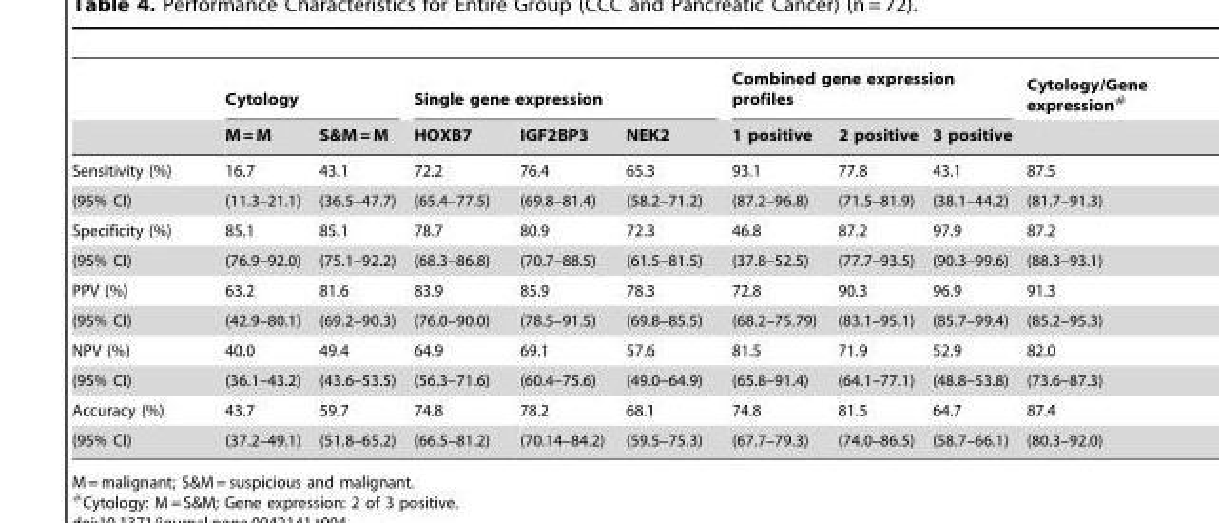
<table><thead><tr><td rowspan="2"></td><td colspan="2">Cytology</td><td colspan="3">Single gene expression</td><td colspan="3">Combined gene expression profiles</td><td rowspan="2">Cytology/Gene expression#</td></tr><tr><td>M = M</td><td>S&amp;M = M</td><td>HOXB7</td><td>IGF2BP3</td><td>NEK2</td><td>1 positive</td><td>2 positive</td><td>3 positive</td></tr></thead><tbody><tr><td>Sensitivity (%)</td><td>16.7</td><td>43.1</td><td>72.2</td><td>76.4</td><td>65.3</td><td>93.1</td><td>77.8</td><td>43.1</td><td>87.5</td></tr><tr><td>(95% CI)</td><td>(11.3–21.1)</td><td>(36.5–47.7)</td><td>(65.4–77.5)</td><td>(69.8–81.4)</td><td>(58.2–71.2)</td><td>(87.2–96.8)</td><td>(71.5–81.9)</td><td>(38.1–44.2)</td><td>(81.7–91.3)</td></tr><tr><td>Specificity (%)</td><td>85.1</td><td>85.1</td><td>78.7</td><td>80.9</td><td>72.3</td><td>46.8</td><td>87.2</td><td>97.9</td><td>87.2</td></tr><tr><td>(95% CI)</td><td>(76.9–92.0)</td><td>(75.1–92.2)</td><td>(68.3–86.8)</td><td>(70.7–88.5)</td><td>(61.5–81.5)</td><td>(37.8–52.5)</td><td>(77.7–93.5)</td><td>(90.3–99.6)</td><td>(88.3–93.1)</td></tr><tr><td>PPV (%)</td><td>63.2</td><td>81.6</td><td>83.9</td><td>85.9</td><td>78.3</td><td>72.8</td><td>90.3</td><td>96.9</td><td>91.3</td></tr><tr><td>(95% CI)</td><td>(42.9–80.1)</td><td>(69.2–90.3)</td><td>(76.0–90.0)</td><td>(78.5–91.5)</td><td>(69.8–85.5)</td><td>(68.2–75.79)</td><td>(83.1–95.1)</td><td>(85.7–99.4)</td><td>(85.2–95.3)</td></tr><tr><td>NPV (%)</td><td>40.0</td><td>49.4</td><td>64.9</td><td>69.1</td><td>57.6</td><td>81.5</td><td>71.9</td><td>52.9</td><td>82.0</td></tr><tr><td>(95% CI)</td><td>(36.1–43.2)</td><td>(43.6–53.5)</td><td>(56.3–71.6)</td><td>(60.4–75.6)</td><td>(49.0–64.9)</td><td>(65.8–91.4)</td><td>(64.1–77.1)</td><td>(48.8–53.8)</td><td>(73.6–87.3)</td></tr><tr><td>Accuracy (%)</td><td>43.7</td><td>59.7</td><td>74.8</td><td>78.2</td><td>68.1</td><td>74.8</td><td>81.5</td><td>64.7</td><td>87.4</td></tr><tr><td>(95% CI)</td><td>(37.2–49.1)</td><td>(51.8–65.2)</td><td>(66.5–81.2)</td><td>(70.14–84.2)</td><td>(59.5–75.3)</td><td>(67.7–79.3)</td><td>(74.0–86.5)</td><td>(58.7–66.1)</td><td>(80.3–92.0)</td></tr></tbody></table>